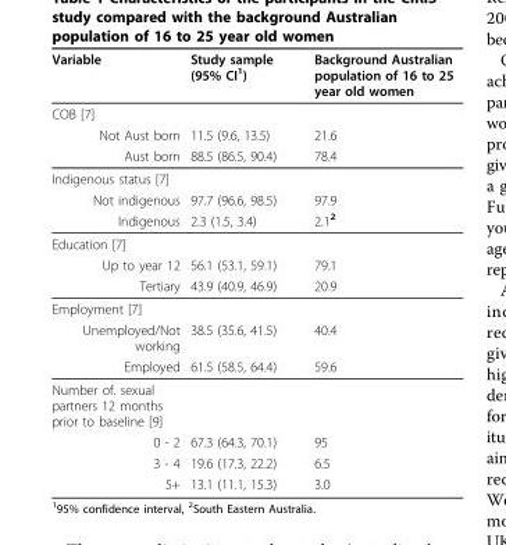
<table><thead><tr><td>Variable</td><td>Study sample (95% CI<sup>1</sup>)</td><td>Background Australian population of 16 to 25 year old women</td></tr></thead><tbody><tr><td colspan="3">COB [7]</td></tr><tr><td>Not Aust born</td><td>11.5 (9.6, 13.5)</td><td>21.6</td></tr><tr><td>Aust born</td><td>88.5 (86.5, 90.4)</td><td>78.4</td></tr><tr><td colspan="3">Indigenous status [7]</td></tr><tr><td>Not indigenous</td><td>97.7 (96.6, 98.5)</td><td>97.9</td></tr><tr><td>Indigenous</td><td>2.3 (1.5, 3.4)</td><td>2.1<sup>2</sup></td></tr><tr><td colspan="3">Education [7]</td></tr><tr><td>Up to year 12</td><td>56.1 (53.1, 59.1)</td><td>79.1</td></tr><tr><td>Tertiary</td><td>43.9 (40.9, 46.9)</td><td>20.9</td></tr><tr><td colspan="3">Employment [7]</td></tr><tr><td>Unemployed/Not working</td><td>38.5 (35.6, 41.5)</td><td>40.4</td></tr><tr><td>Employed</td><td>61.5 (58.5, 64.4)</td><td>59.6</td></tr><tr><td colspan="3">Number of. sexual partners 12 months prior to baseline [9]</td></tr><tr><td>0 - 2</td><td>67.3 (64.3, 70.1)</td><td>95</td></tr><tr><td>3 - 4</td><td>19.6 (17.3, 22.2)</td><td>6.5</td></tr><tr><td>5+</td><td>13.1 (11.1, 15.3)</td><td>3.0</td></tr></tbody></table>